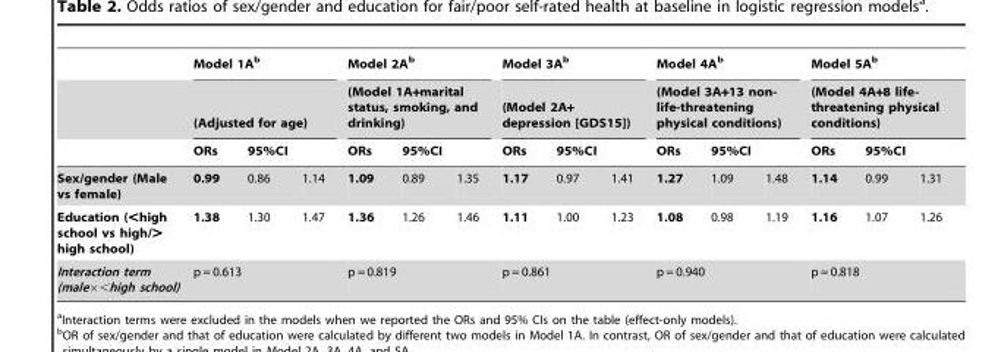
<table><thead><tr><td rowspan="4">Sex/gender (Male vs female)</td><td rowspan="2" colspan="3">Model 1A<sup>b</sup> (Adjusted for age)</td><td rowspan="2" colspan="3">Model 2A<sup>b</sup> (Model 1A+marital status, smoking, and drinking)</td><td rowspan="2" colspan="3">Model 3A<sup>b</sup> (Model 2A+ depression [GDS15])</td><td rowspan="2" colspan="3">Model 4A<sup>b</sup> (Model 3A+13 non- life-threatening physical conditions)</td><td rowspan="2" colspan="3">Model 5A<sup>b</sup> (Model 4A+8 life- threatening physical conditions)</td></tr><tr></tr><tr><td rowspan="2">ORs 0.99</td><td colspan="2">95%CI</td><td rowspan="2">ORs 1.09</td><td colspan="2">95%CI</td><td rowspan="2">ORs 1.17</td><td colspan="2">95%CI</td><td rowspan="2">ORs 1.27</td><td colspan="2">95%CI</td><td rowspan="2">ORs 1.14</td><td colspan="2">95%CI</td></tr><tr><td>0.86</td><td>1.14</td><td>0.89</td><td>1.35</td><td>0.97</td><td>1.41</td><td>1.09</td><td>1.48</td><td>0.99</td><td>1.31</td></tr></thead><tbody><tr><td>Education (&lt;high school vs high/&gt; high school)</td><td>1.38</td><td>1.30</td><td>1.47</td><td>1.36</td><td>1.26</td><td>1.46</td><td>1.11</td><td>1.00</td><td>1.23</td><td>1.08</td><td>0.98</td><td>1.19</td><td>1.16</td><td>1.07</td><td>1.26</td></tr><tr><td>Interaction term (male×&lt;high school)</td><td colspan="3">p = 0.613</td><td colspan="3">p = 0.819</td><td colspan="3">p = 0.861</td><td colspan="3">p = 0.940</td><td colspan="3">p = 0.818</td></tr></tbody></table>